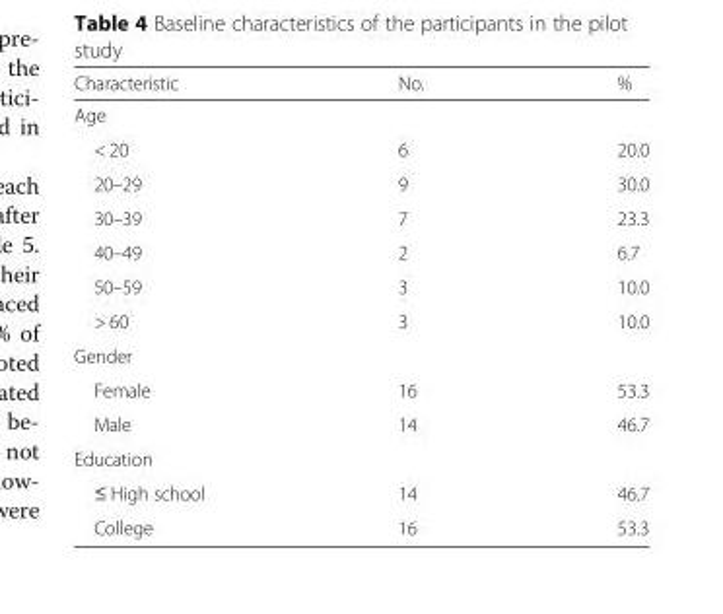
<table><thead><tr><td>Characteristic</td><td>No.</td><td>%</td></tr></thead><tbody><tr><td colspan="3">Age</td></tr><tr><td>&lt; 20</td><td>6</td><td>20.0</td></tr><tr><td>20–29</td><td>9</td><td>30.0</td></tr><tr><td>30–39</td><td>7</td><td>23.3</td></tr><tr><td>40–49</td><td>2</td><td>6.7</td></tr><tr><td>50–59</td><td>3</td><td>10.0</td></tr><tr><td>&gt; 60</td><td>3</td><td>10.0</td></tr><tr><td colspan="3">Gender</td></tr><tr><td>Female</td><td>16</td><td>53.3</td></tr><tr><td>Male</td><td>14</td><td>46.7</td></tr><tr><td colspan="3">Education</td></tr><tr><td>≤ High school</td><td>14</td><td>46.7</td></tr><tr><td>College</td><td>16</td><td>53.3</td></tr></tbody></table>